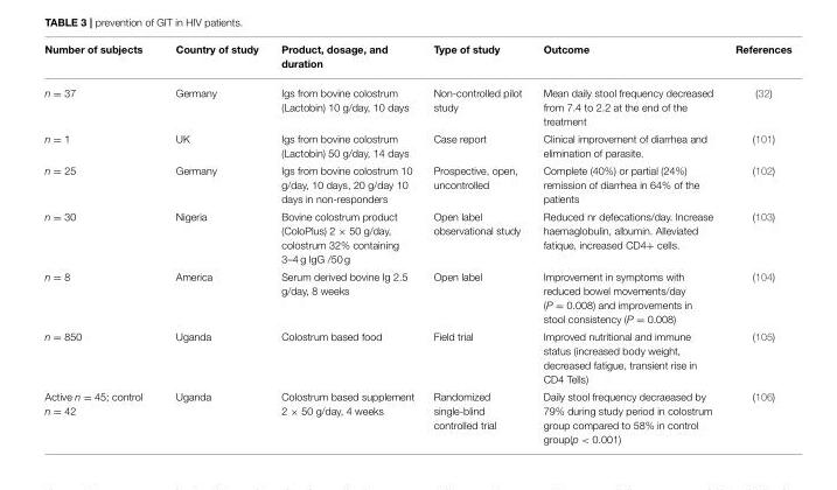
<table><thead><tr><td>Number of subjects</td><td>Country of study</td><td>Product, dosage, and duration</td><td>Type of study</td><td>Outcome</td><td>References</td></tr></thead><tbody><tr><td>n = 37</td><td>Germany</td><td>Igs from bovine colostrum (Lactobin) 10 g/day, 10 days</td><td>Non-controlled pilot study</td><td>Mean daily stool frequency decreased from 7.4 to 2.2 at the end of the treatment</td><td>(32)</td></tr><tr><td>n = 1</td><td>UK</td><td>Igs from bovine colostrum (Lactobin) 50 g/day, 14 days</td><td>Case report</td><td>Clinical improvement of diarrhea and elimination of parasite.</td><td>(101)</td></tr><tr><td>n = 25</td><td>Germany</td><td>Igs from bovine colostrum 10 g/day, 10 days, 20 g/day 10 days in non-responders</td><td>Prospective, open, uncontrolled</td><td>Complete (40%) or partial (24%) remission of diarrhea in 64% of the patients</td><td>(102)</td></tr><tr><td>n = 30</td><td>Nigeria</td><td>Bovine colostrum product (ColoPlus) 2 × 50 g/day, colostrum 32% containing 3–4 g IgG /50 g</td><td>Open label observational study</td><td>Reduced nr defecations/day. Increase haemaglobulin, albumin. Alleviated fatique, increased CD4+ cells.</td><td>(103)</td></tr><tr><td>n = 8</td><td>America</td><td>Serum derived bovine Ig 2.5 g/day, 8 weeks</td><td>Open label</td><td>Improvement in symptoms with reduced bowel movements/day (P = 0.008) and improvements in stool consistency (P = 0.008)</td><td>(104)</td></tr><tr><td>n = 850</td><td>Uganda</td><td>Colostrum based food</td><td>Field trial</td><td>Improved nutritional and immune status (increased body weight, decreased fatigue, transient rise in CD4 Tells)</td><td>(105)</td></tr><tr><td>Active n = 45; control n = 42</td><td>Uganda</td><td>Colostrum based supplement 2 × 50 g/day, 4 weeks</td><td>Randomized single-blind controlled trial</td><td>Daily stool frequency decraeased by 79% during study period in colostrum group compared to 58% in control group(p &lt; 0.001)</td><td>(106)</td></tr></tbody></table>